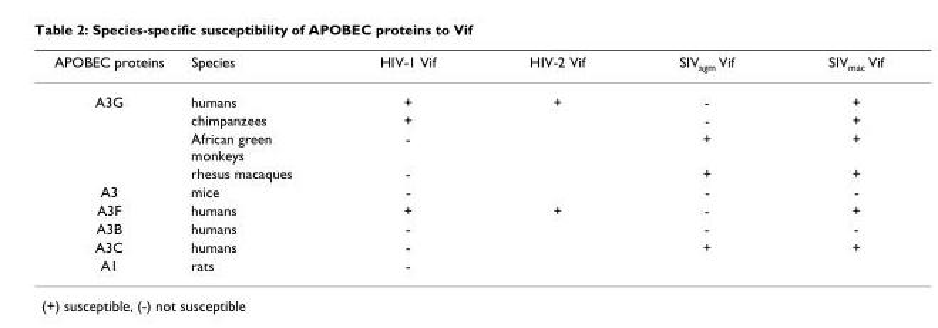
<table><thead><tr><td>APOBEC proteins</td><td>Species</td><td>HIV-1 Vif</td><td>HIV-2 Vif</td><td>SIV<sub>agm</sub> Vif</td><td>SIV<sub>mac</sub> Vif</td></tr></thead><tbody><tr><td rowspan="4">A3G</td><td>humans</td><td>+</td><td>+</td><td>-</td><td>+</td></tr><tr><td>chimpanzees</td><td>+</td><td></td><td>-</td><td>+</td></tr><tr><td>African green monkeys</td><td>-</td><td></td><td>+</td><td>+</td></tr><tr><td>rhesus macaques</td><td>-</td><td></td><td>+</td><td>+</td></tr><tr><td>A3</td><td>mice</td><td>-</td><td></td><td>-</td><td>-</td></tr><tr><td>A3F</td><td>humans</td><td>+</td><td>+</td><td>-</td><td>+</td></tr><tr><td>A3B</td><td>humans</td><td>-</td><td></td><td>-</td><td>-</td></tr><tr><td>A3C</td><td>humans</td><td>-</td><td></td><td>+</td><td>+</td></tr><tr><td>A1</td><td>rats</td><td>-</td><td></td><td></td><td></td></tr></tbody></table>